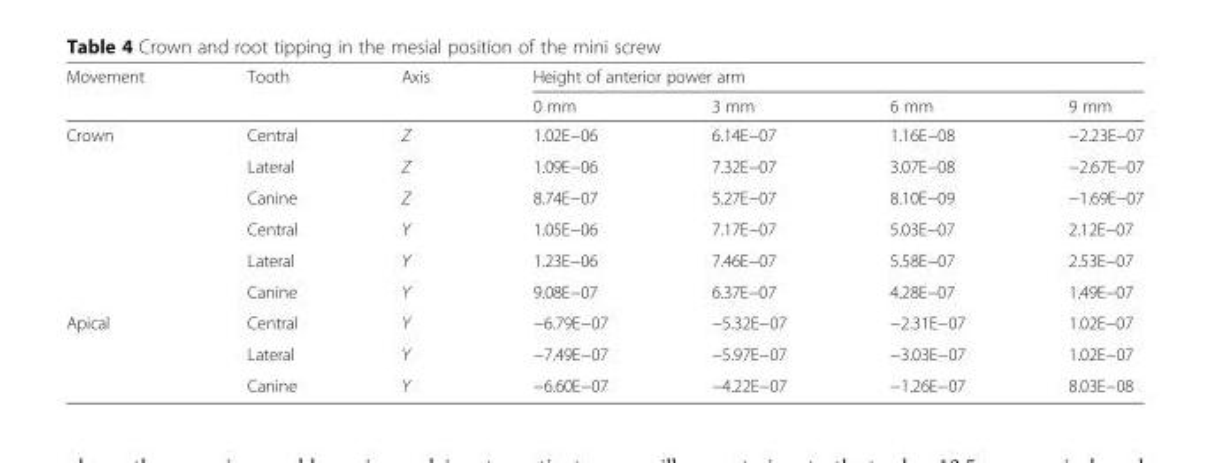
<table><thead><tr><td rowspan="2">Movement</td><td rowspan="2">Tooth</td><td rowspan="2">Axis</td><td colspan="4">Height of anterior power arm</td></tr><tr><td>0 mm</td><td>3 mm</td><td>6 mm</td><td>9 mm</td></tr></thead><tbody><tr><td rowspan="6">Crown</td><td>Central</td><td>Z</td><td>1.02E−06</td><td>6.14E−07</td><td>1.16E−08</td><td>−2.23E−07</td></tr><tr><td>Lateral</td><td>Z</td><td>1.09E−06</td><td>7.32E−07</td><td>3.07E−08</td><td>−2.67E−07</td></tr><tr><td>Canine</td><td>Z</td><td>8.74E−07</td><td>5.27E−07</td><td>8.10E−09</td><td>−1.69E−07</td></tr><tr><td>Central</td><td>Y</td><td>1.05E−06</td><td>7.17E−07</td><td>5.03E−07</td><td>2.12E−07</td></tr><tr><td>Lateral</td><td>Y</td><td>1.23E−06</td><td>7.46E−07</td><td>5.58E−07</td><td>2.53E−07</td></tr><tr><td>Canine</td><td>Y</td><td>9.08E−07</td><td>6.37E−07</td><td>4.28E−07</td><td>1.49E−07</td></tr><tr><td rowspan="3">Apical</td><td>Central</td><td>Y</td><td>−6.79E−07</td><td>−5.32E−07</td><td>−2.31E−07</td><td>1.02E−07</td></tr><tr><td>Lateral</td><td>Y</td><td>−7.49E−07</td><td>−5.97E−07</td><td>−3.03E−07</td><td>1.02E−07</td></tr><tr><td>Canine</td><td>Y</td><td>−6.60E−07</td><td>−4.22E−07</td><td>−1.26E−07</td><td>8.03E−08</td></tr></tbody></table>